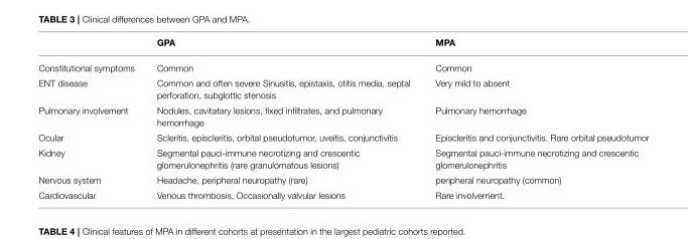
<table><thead><tr><td></td><td>GPA</td><td>MPA</td></tr></thead><tbody><tr><td>Constitutional symptoms</td><td>Common</td><td>Common</td></tr><tr><td>ENT disease</td><td>Common and often severe Sinusitis, epistaxis, otitis media, septal perforation, subglottic stenosis</td><td>Very mild to absent</td></tr><tr><td>Pulmonary involvement</td><td>Nodules, cavitatary lesions, fixed infiltrates, and pulmonary hemorrhage</td><td>Pulmonary hemorrhage</td></tr><tr><td>Ocular</td><td>Scleritis, episcleritis, orbital pseudotumor, uveitis, conjunctivitis</td><td>Episcleritis and conjunctivitis. Rare orbital pseudotumor</td></tr><tr><td>Kidney</td><td>Segmental pauci-immune necrotizing and crescentic glomerulonephritis (rare granulomatous lesions)</td><td>Segmental pauci-immune necrotizing and crescentic glomerulonephritis</td></tr><tr><td>Nervous system</td><td>Headache, peripheral neuropathy (rare)</td><td>peripheral neuropathy (common)</td></tr><tr><td>Cardiovascular</td><td>Venous thrombosis, Occasionally valvular lesions</td><td>Rare involvement.</td></tr></tbody></table>